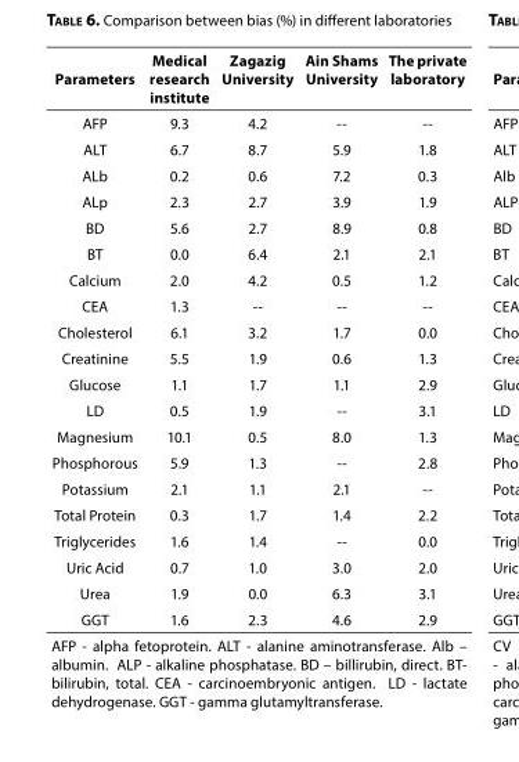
<table><thead><tr><td>Parameters</td><td>Medical research institute</td><td>Zagazig University</td><td>Ain Shams University</td><td>The private laboratory</td></tr></thead><tbody><tr><td>AFP</td><td>9.3</td><td>4.2</td><td>--</td><td>--</td></tr><tr><td>ALT</td><td>6.7</td><td>8.7</td><td>5.9</td><td>1.8</td></tr><tr><td>ALb</td><td>0.2</td><td>0.6</td><td>7.2</td><td>0.3</td></tr><tr><td>ALp</td><td>2.3</td><td>2.7</td><td>3.9</td><td>1.9</td></tr><tr><td>BD</td><td>5.6</td><td>2.7</td><td>8.9</td><td>0.8</td></tr><tr><td>BT</td><td>0.0</td><td>6.4</td><td>2.1</td><td>2.1</td></tr><tr><td>Calcium</td><td>2.0</td><td>4.2</td><td>0.5</td><td>1.2</td></tr><tr><td>CEA</td><td>1.3</td><td>--</td><td>--</td><td>--</td></tr><tr><td>Cholesterol</td><td>6.1</td><td>3.2</td><td>1.7</td><td>0.0</td></tr><tr><td>Creatinine</td><td>5.5</td><td>1.9</td><td>0.6</td><td>1.3</td></tr><tr><td>Glucose</td><td>1.1</td><td>1.7</td><td>1.1</td><td>2.9</td></tr><tr><td>LD</td><td>0.5</td><td>1.9</td><td>--</td><td>3.1</td></tr><tr><td>Magnesium</td><td>10.1</td><td>0.5</td><td>8.0</td><td>1.3</td></tr><tr><td>Phosphorous</td><td>5.9</td><td>1.3</td><td>--</td><td>2.8</td></tr><tr><td>Potassium</td><td>2.1</td><td>1.1</td><td>2.1</td><td>--</td></tr><tr><td>Total Protein</td><td>0.3</td><td>1.7</td><td>1.4</td><td>2.2</td></tr><tr><td>Triglycerides</td><td>1.6</td><td>1.4</td><td>--</td><td>0.0</td></tr><tr><td>Uric Acid</td><td>0.7</td><td>1.0</td><td>3.0</td><td>2.0</td></tr><tr><td>Urea</td><td>1.9</td><td>0.0</td><td>6.3</td><td>3.1</td></tr><tr><td>GGT</td><td>1.6</td><td>2.3</td><td>4.6</td><td>2.9</td></tr><tr><td colspan="5">AFP - alpha fetoprotein. ALT - alanine aminotransferase. Alb – albumin. ALP - alkaline phosphatase. BD – billirubin, direct. BT- bilirubin, total. CEA - carcinoembryonic antigen. LD - lactate dehydrogenase. GGT - gamma glutamyltransferase.</td></tr></tbody></table>